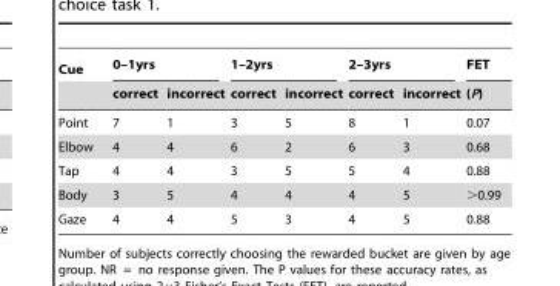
<table><thead><tr><td rowspan="2">Cue</td><td colspan="2">0–1yrs</td><td colspan="2">1–2yrs</td><td colspan="2">2–3yrs</td><td rowspan="2">FET (P)</td></tr><tr><td>correct</td><td>incorrect</td><td>correct</td><td>incorrect</td><td>correct</td><td>incorrect</td></tr></thead><tbody><tr><td>Point</td><td>7</td><td>1</td><td>3</td><td>5</td><td>8</td><td>1</td><td>0.07</td></tr><tr><td>Elbow</td><td>4</td><td>4</td><td>6</td><td>2</td><td>6</td><td>3</td><td>0.68</td></tr><tr><td>Tap</td><td>4</td><td>4</td><td>3</td><td>5</td><td>5</td><td>4</td><td>0.88</td></tr><tr><td>Body</td><td>3</td><td>5</td><td>4</td><td>4</td><td>4</td><td>5</td><td>&gt;0.99</td></tr><tr><td>Gaze</td><td>4</td><td>4</td><td>5</td><td>3</td><td>4</td><td>5</td><td>0.88</td></tr></tbody></table>